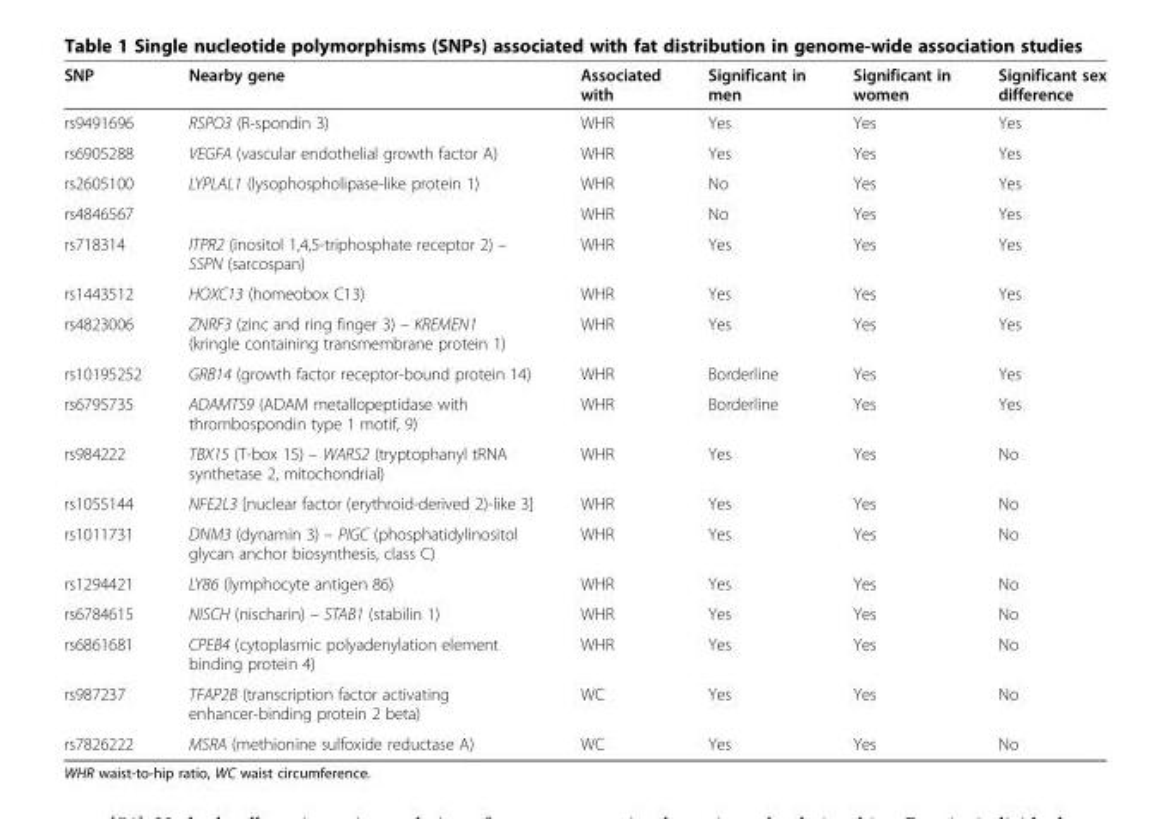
<table><thead><tr><td>SNP</td><td>Nearby gene</td><td>Associated with</td><td>Significant in men</td><td>Significant in women</td><td>Significant sex difference</td></tr></thead><tbody><tr><td>rs9491696</td><td>RSPO3 (R-spondin 3)</td><td>WHR</td><td>Yes</td><td>Yes</td><td>Yes</td></tr><tr><td>rs6905288</td><td>VEGFA (vascular endothelial growth factor A)</td><td>WHR</td><td>Yes</td><td>Yes</td><td>Yes</td></tr><tr><td>rs2605100</td><td rowspan="2">LYPLAL1 (lysophospholipase-like protein 1)</td><td>WHR</td><td>No</td><td>Yes</td><td>Yes</td></tr><tr><td>rs4846567</td><td>WHR</td><td>No</td><td>Yes</td><td>Yes</td></tr><tr><td>rs718314</td><td>ITPR2 (inositol 1,4,5-triphosphate receptor 2) – SSPN (sarcospan)</td><td>WHR</td><td>Yes</td><td>Yes</td><td>Yes</td></tr><tr><td>rs1443512</td><td>HOXC13 (homeobox C13)</td><td>WHR</td><td>Yes</td><td>Yes</td><td>Yes</td></tr><tr><td>rs4823006</td><td>ZNRF3 (zinc and ring finger 3) – KREMEN1 (kringle containing transmembrane protein 1)</td><td>WHR</td><td>Yes</td><td>Yes</td><td>Yes</td></tr><tr><td>rs10195252</td><td>GRB14 (growth factor receptor-bound protein 14)</td><td>WHR</td><td>Borderline</td><td>Yes</td><td>Yes</td></tr><tr><td>rs6795735</td><td>ADAMTS9 (ADAM metallopeptidase with thrombospondin type 1 motif, 9)</td><td>WHR</td><td>Borderline</td><td>Yes</td><td>Yes</td></tr><tr><td>rs984222</td><td>TBX15 (T-box 15) – WARS2 (tryptophanyl tRNA synthetase 2, mitochondrial)</td><td>WHR</td><td>Yes</td><td>Yes</td><td>No</td></tr><tr><td>rs1055144</td><td>NFE2L3 [nuclear factor (erythroid-derived 2)-like 3]</td><td>WHR</td><td>Yes</td><td>Yes</td><td>No</td></tr><tr><td>rs1011731</td><td>DNM3 (dynamin 3) – PIGC (phosphatidylinositol glycan anchor biosynthesis, class C)</td><td>WHR</td><td>Yes</td><td>Yes</td><td>No</td></tr><tr><td>rs1294421</td><td>LY86 (lymphocyte antigen 86)</td><td>WHR</td><td>Yes</td><td>Yes</td><td>No</td></tr><tr><td>rs6784615</td><td>NISCH (nischarin) – STAB1 (stabilin 1)</td><td>WHR</td><td>Yes</td><td>Yes</td><td>No</td></tr><tr><td>rs6861681</td><td>CPEB4 (cytoplasmic polyadenylation element binding protein 4)</td><td>WHR</td><td>Yes</td><td>Yes</td><td>No</td></tr><tr><td>rs987237</td><td>TFAP2B (transcription factor activating enhancer-binding protein 2 beta)</td><td>WC</td><td>Yes</td><td>Yes</td><td>No</td></tr><tr><td>rs7826222</td><td>MSRA (methionine sulfoxide reductase A)</td><td>WC</td><td>Yes</td><td>Yes</td><td>No</td></tr></tbody></table>